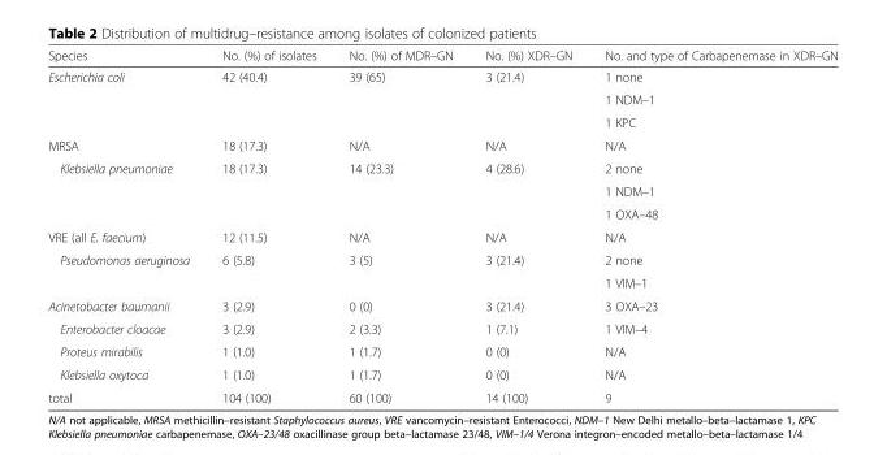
<table><thead><tr><td>Species</td><td>No. (%) of isolates</td><td>No. (%) of MDR–GN</td><td>No. (%) XDR–GN</td><td>No. and type of Carbapenemase in XDR–GN</td></tr></thead><tbody><tr><td rowspan="3">Escherichia coli</td><td rowspan="3">42 (40.4)</td><td rowspan="3">39 (65)</td><td rowspan="3">3 (21.4)</td><td>1 none</td></tr><tr><td>1 NDM–1</td></tr><tr><td>1 KPC</td></tr><tr><td>MRSA</td><td>18 (17.3)</td><td>N/A</td><td>N/A</td><td>N/A</td></tr><tr><td rowspan="3">Klebsiella pneumoniae</td><td rowspan="3">18 (17.3)</td><td rowspan="3">14 (23.3)</td><td rowspan="3">4 (28.6)</td><td>2 none</td></tr><tr><td>1 NDM–1</td></tr><tr><td>1 OXA–48</td></tr><tr><td>VRE (all E. faecium)</td><td>12 (11.5)</td><td>N/A</td><td>N/A</td><td>N/A</td></tr><tr><td rowspan="2">Pseudomonas aeruginosa</td><td rowspan="2">6 (5.8)</td><td rowspan="2">3 (5)</td><td rowspan="2">3 (21.4)</td><td>2 none</td></tr><tr><td>1 VIM–1</td></tr><tr><td>Acinetobacter baumanii</td><td>3 (2.9)</td><td>0 (0)</td><td>3 (21.4)</td><td>3 OXA–23</td></tr><tr><td>Enterobacter cloacae</td><td>3 (2.9)</td><td>2 (3.3)</td><td>1 (7.1)</td><td>1 VIM–4</td></tr><tr><td>Proteus mirabilis</td><td>1 (1.0)</td><td>1 (1.7)</td><td>0 (0)</td><td>N/A</td></tr><tr><td>Klebsiella oxytoca</td><td>1 (1.0)</td><td>1 (1.7)</td><td>0 (0)</td><td>N/A</td></tr><tr><td>total</td><td>104 (100)</td><td>60 (100)</td><td>14 (100)</td><td>9</td></tr></tbody></table>